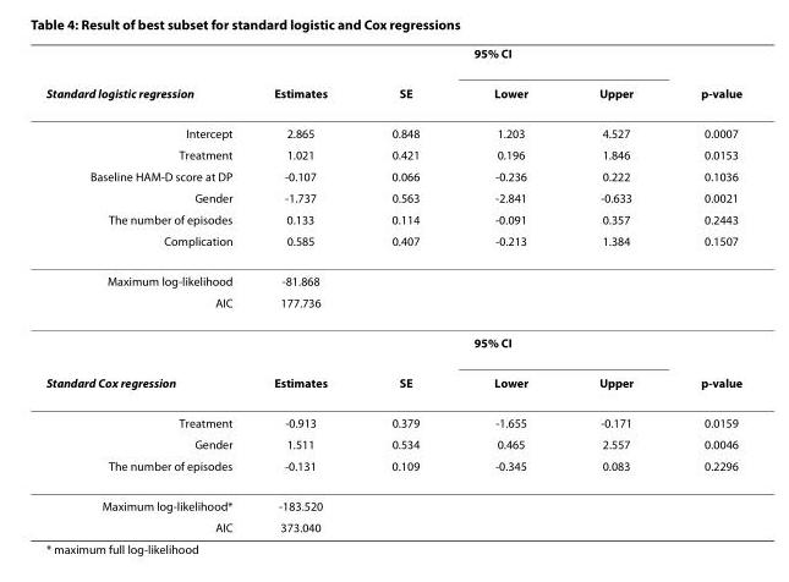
<table><thead><tr><td rowspan="2">Standard logistic regression</td><td rowspan="2">Estimates</td><td rowspan="2">SE</td><td colspan="2">95% CI</td><td rowspan="2">p-value</td></tr><tr><td>Lower</td><td>Upper</td></tr></thead><tbody><tr><td>Intercept</td><td>2.865</td><td>0.848</td><td>1.203</td><td>4.527</td><td>0.0007</td></tr><tr><td>Treatment</td><td>1.021</td><td>0.421</td><td>0.196</td><td>1.846</td><td>0.0153</td></tr><tr><td>Baseline HAM-D score at DP</td><td>-0.107</td><td>0.066</td><td>-0.236</td><td>0.222</td><td>0.1036</td></tr><tr><td>Gender</td><td>-1.737</td><td>0.563</td><td>-2.841</td><td>-0.633</td><td>0.0021</td></tr><tr><td>The number of episodes</td><td>0.133</td><td>0.114</td><td>-0.091</td><td>0.357</td><td>0.2443</td></tr><tr><td>Complication</td><td>0.585</td><td>0.407</td><td>-0.213</td><td>1.384</td><td>0.1507</td></tr><tr><td>Maximum log-likelihood</td><td>-81.868</td><td></td><td></td><td></td><td></td></tr><tr><td rowspan="2">AIC</td><td>177.736</td><td></td><td></td><td></td><td></td></tr><tr><td></td><td></td><td colspan="2">95% CI</td><td></td></tr><tr><td>Standard Cox regression</td><td>Estimates</td><td>SE</td><td>Lower</td><td>Upper</td><td>p-value</td></tr><tr><td>Treatment</td><td>-0.913</td><td>0.379</td><td>-1.655</td><td>-0.171</td><td>0.0159</td></tr><tr><td>Gender</td><td>1.511</td><td>0.534</td><td>0.465</td><td>2.557</td><td>0.0046</td></tr><tr><td>The number of episodes</td><td>-0.131</td><td>0.109</td><td>-0.345</td><td>0.083</td><td>0.2296</td></tr><tr><td>Maximum log-likelihood*</td><td>-183.520</td><td></td><td></td><td></td><td></td></tr><tr><td>AIC</td><td>373.040</td><td></td><td></td><td></td><td></td></tr></tbody></table>